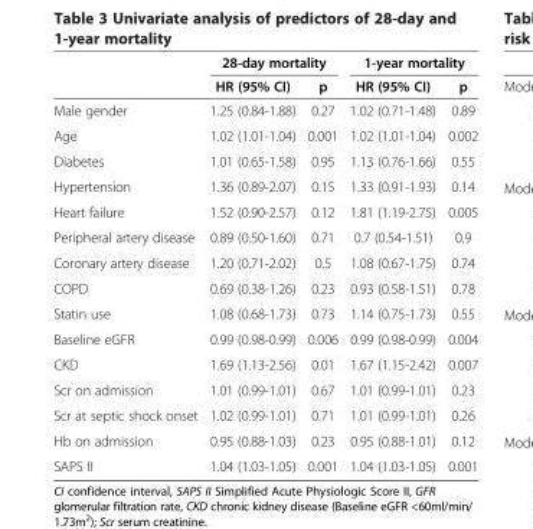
<table><thead><tr><td rowspan="2"></td><td colspan="2">28-day mortality</td><td colspan="2">1-year mortality</td></tr><tr><td>HR (95% CI)</td><td>p</td><td>HR (95% CI)</td><td>p</td></tr></thead><tbody><tr><td>Male gender</td><td>1.25 (0.84-1.88)</td><td>0.27</td><td>1.02 (0.71-1.48)</td><td>0.89</td></tr><tr><td>Age</td><td>1.02 (1.01-1.04)</td><td>0.001</td><td>1.02 (1.01-1.04)</td><td>0.002</td></tr><tr><td>Diabetes</td><td>1.01 (0.65-1.58)</td><td>0.95</td><td>1.13 (0.76-1.66)</td><td>0.55</td></tr><tr><td>Hypertension</td><td>1.36 (0.89-2.07)</td><td>0.15</td><td>1.33 (0.91-1.93)</td><td>0.14</td></tr><tr><td>Heart failure</td><td>1.52 (0.90-2.57)</td><td>0.12</td><td>1.81 (1.19-2.75)</td><td>0.005</td></tr><tr><td>Peripheral artery disease</td><td>0.89 (0.50-1.60)</td><td>0.71</td><td>0.7 (0.54-1.51)</td><td>0.9</td></tr><tr><td>Coronary artery disease</td><td>1.20 (0.71-2.02)</td><td>0.5</td><td>1.08 (0.67-1.75)</td><td>0.74</td></tr><tr><td>COPD</td><td>0.69 (0.38-1.26)</td><td>0.23</td><td>0.93 (0.58-1.51)</td><td>0.78</td></tr><tr><td>Statin use</td><td>1.08 (0.68-1.73)</td><td>0.73</td><td>1.14 (0.75-1.73)</td><td>0.55</td></tr><tr><td>Baseline eGFR</td><td>0.99 (0.98-0.99)</td><td>0.006</td><td>0.99 (0.98-0.99)</td><td>0.004</td></tr><tr><td>CKD</td><td>1.69 (1.13-2.56)</td><td>0.01</td><td>1.67 (1.15-2.42)</td><td>0.007</td></tr><tr><td>Scr on admission</td><td>1.01 (0.99-1.01)</td><td>0.67</td><td>1.01 (0.99-1.01)</td><td>0.23</td></tr><tr><td>Scr at septic shock onset</td><td>1.02 (0.99-1.01)</td><td>0.71</td><td>1.01 (0.99-1.01)</td><td>0.26</td></tr><tr><td>Hb on admission</td><td>0.95 (0.88-1.03)</td><td>0.23</td><td>0.95 (0.88-1.01)</td><td>0.12</td></tr><tr><td>SAPS II</td><td>1.04 (1.03-1.05)</td><td>0.001</td><td>1.04 (1.03-1.05)</td><td>0.001</td></tr></tbody></table>